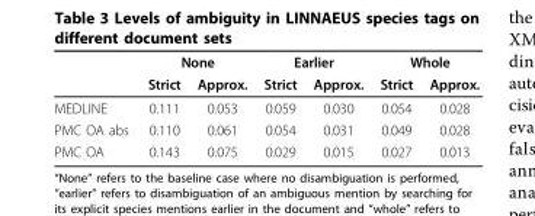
<table><thead><tr><td rowspan="2"></td><td colspan="2">None</td><td colspan="2">Earlier</td><td colspan="2">Whole</td></tr><tr><td>Strict</td><td>Approx.</td><td>Strict</td><td>Approx.</td><td>Strict</td><td>Approx.</td></tr></thead><tbody><tr><td>MEDLINE</td><td>0.111</td><td>0.053</td><td>0.059</td><td>0.030</td><td>0.054</td><td>0.028</td></tr><tr><td>PMC OA abs</td><td>0.110</td><td>0.061</td><td>0.054</td><td>0.031</td><td>0.049</td><td>0.028</td></tr><tr><td>PMC OA</td><td>0.143</td><td>0.075</td><td>0.029</td><td>0.015</td><td>0.027</td><td>0.013</td></tr></tbody></table>